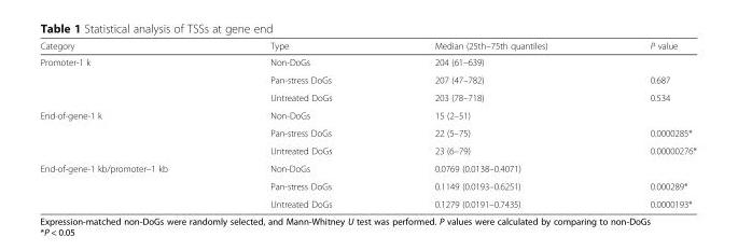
<table><thead><tr><td>Category</td><td>Type</td><td>Median (25th–75th quantiles)</td><td>P value</td></tr></thead><tbody><tr><td rowspan="3">Promoter-1 k</td><td>Non-DoGs</td><td>204 (61–639)</td><td></td></tr><tr><td>Pan-stress DoGs</td><td>207 (47–782)</td><td>0.687</td></tr><tr><td>Untreated DoGs</td><td>203 (78–718)</td><td>0.534</td></tr><tr><td rowspan="3">End-of-gene-1 k</td><td>Non-DoGs</td><td>15 (2–51)</td><td></td></tr><tr><td>Pan-stress DoGs</td><td>22 (5–75)</td><td>0.0000285*</td></tr><tr><td>Untreated DoGs</td><td>23 (6–79)</td><td>0.00000276*</td></tr><tr><td rowspan="3">End-of-gene-1 kb/promoter–1 kb</td><td>Non-DoGs</td><td>0.0769 (0.0138–0.4071)</td><td></td></tr><tr><td>Pan-stress DoGs</td><td>0.1149 (0.0193–0.6251)</td><td>0.000289*</td></tr><tr><td>Untreated DoGs</td><td>0.1279 (0.0191–0.7435)</td><td>0.0000193*</td></tr></tbody></table>